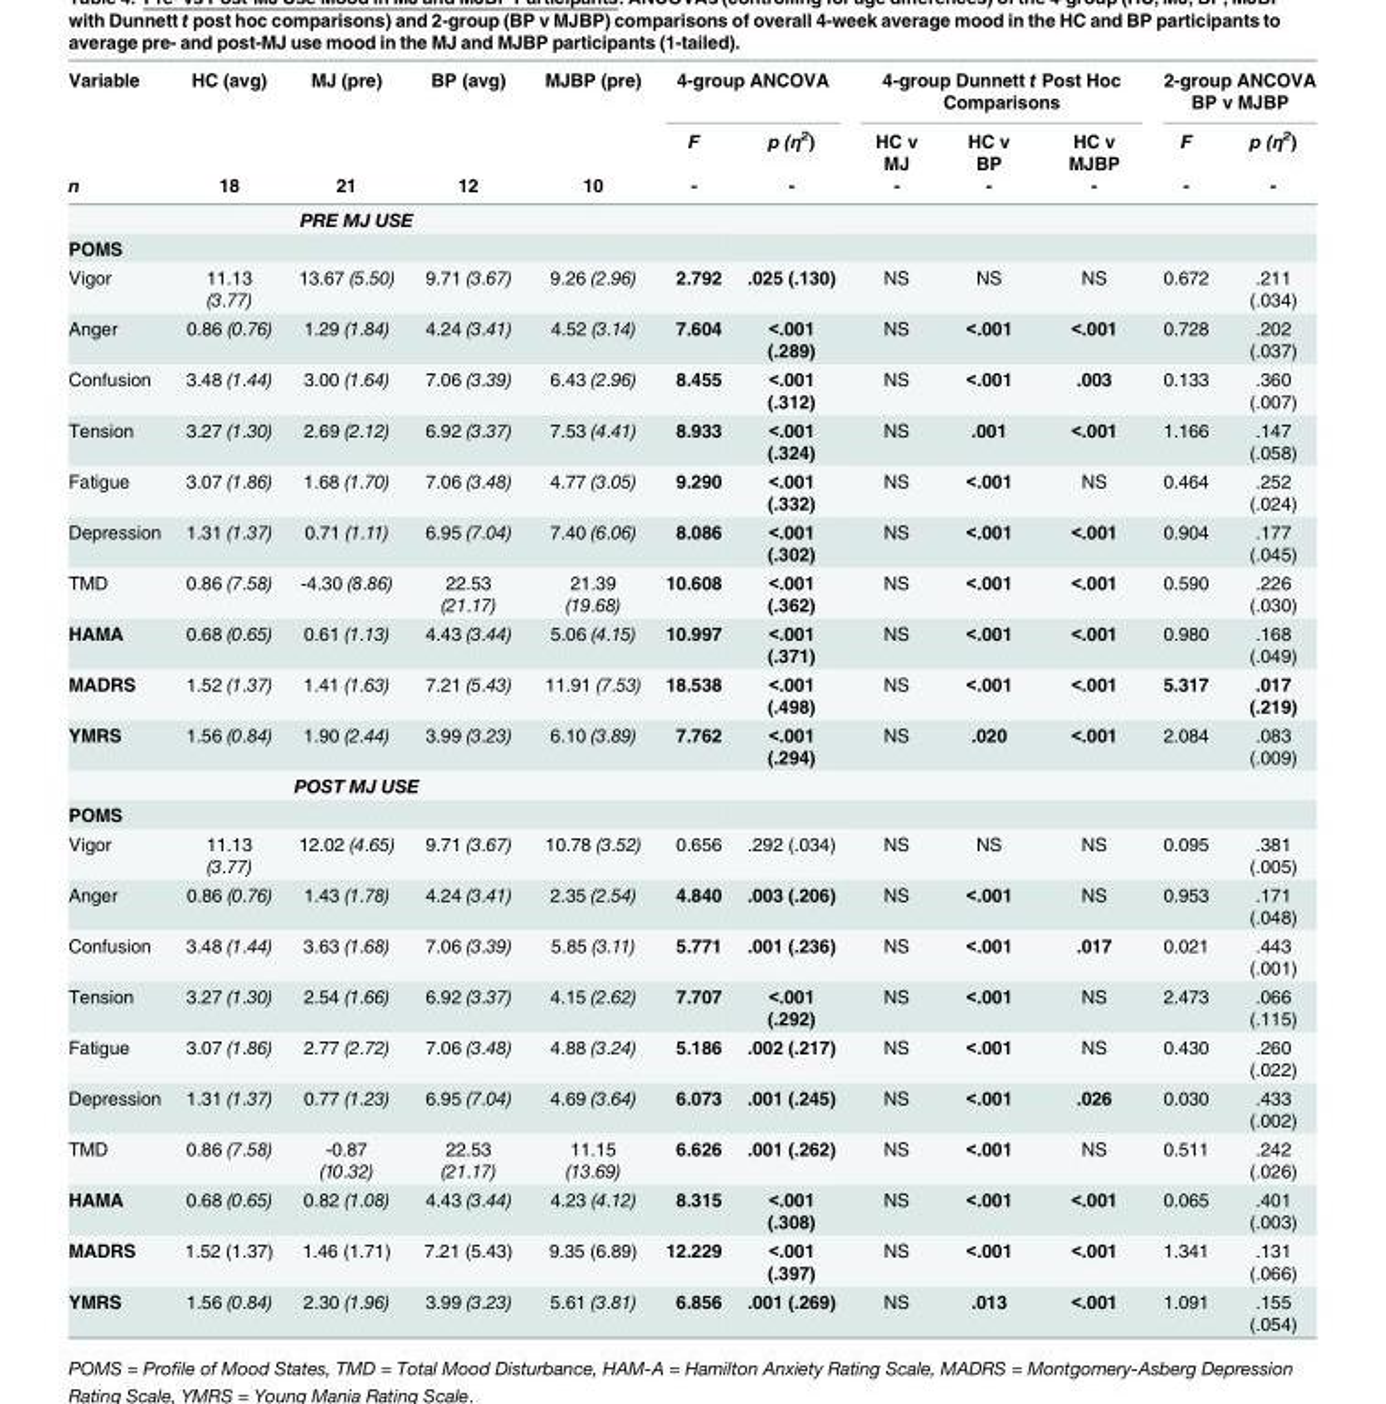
<table><thead><tr><td rowspan="3">Variable n</td><td rowspan="3">HC (avg) 18</td><td rowspan="3">MJ (pre) 21</td><td rowspan="3">BP (avg) 12</td><td rowspan="3">MJBP (pre) 10</td><td colspan="2">4-group ANCOVA</td><td colspan="3">4-group Dunnett t Post Hoc Comparisons</td><td colspan="2">2-group ANCOVA BP v MJBP</td></tr><tr><td rowspan="2">F -</td><td rowspan="2">p (η<sup>2</sup>) -</td><td rowspan="2">HC v MJ -</td><td rowspan="2">HC v BP -</td><td rowspan="2">HC v MJBP -</td><td rowspan="2">F -</td><td rowspan="2">p (η<sup>2</sup>) -</td></tr><tr></tr></thead><tbody><tr><td colspan="12">PRE MJ USE</td></tr><tr><td colspan="12">POMS</td></tr><tr><td>Vigor</td><td>11.13 (3.77)</td><td>13.67 (5.50)</td><td>9.71 (3.67)</td><td>9.26 (2.96)</td><td>2.792</td><td>.025 (.130)</td><td>NS</td><td>NS</td><td>NS</td><td>0.672</td><td>.211 (.034)</td></tr><tr><td>Anger</td><td>0.86 (0.76)</td><td>1.29 (1.84)</td><td>4.24 (3.41)</td><td>4.52 (3.14)</td><td>7.604</td><td>&lt;.001 (.289)</td><td>NS</td><td>&lt;.001</td><td>&lt;.001</td><td>0.728</td><td>.202 (.037)</td></tr><tr><td>Confusion</td><td>3.48 (1.44)</td><td>3.00 (1.64)</td><td>7.06 (3.39)</td><td>6.43 (2.96)</td><td>8.455</td><td>&lt;.001 (.312)</td><td>NS</td><td>&lt;.001</td><td>.003</td><td>0.133</td><td>.360 (.007)</td></tr><tr><td>Tension</td><td>3.27 (1.30)</td><td>2.69 (2.12)</td><td>6.92 (3.37)</td><td>7.53 (4.41)</td><td>8.933</td><td>&lt;.001 (.324)</td><td>NS</td><td>.001</td><td>&lt;.001</td><td>1.166</td><td>.147 (.058)</td></tr><tr><td>Fatigue</td><td>3.07 (1.86)</td><td>1.68 (1.70)</td><td>7.06 (3.48)</td><td>4.77 (3.05)</td><td>9.290</td><td>&lt;.001 (.332)</td><td>NS</td><td>&lt;.001</td><td>NS</td><td>0.464</td><td>.252 (.024)</td></tr><tr><td>Depression</td><td>1.31 (1.37)</td><td>0.71 (1.11)</td><td>6.95 (7.04)</td><td>7.40 (6.06)</td><td>8.086</td><td>&lt;.001 (.302)</td><td>NS</td><td>&lt;.001</td><td>&lt;.001</td><td>0.904</td><td>.177 (.045)</td></tr><tr><td>TMD</td><td>0.86 (7.58)</td><td>-4.30 (8.86)</td><td>22.53 (21.17)</td><td>21.39 (19.68)</td><td>10.608</td><td>&lt;.001 (.362)</td><td>NS</td><td>&lt;.001</td><td>&lt;.001</td><td>0.590</td><td>.226 (.030)</td></tr><tr><td>HAMA</td><td>0.68 (0.65)</td><td>0.61 (1.13)</td><td>4.43 (3.44)</td><td>5.06 (4.15)</td><td>10.997</td><td>&lt;.001 (.371)</td><td>NS</td><td>&lt;.001</td><td>&lt;.001</td><td>0.980</td><td>.168 (.049)</td></tr><tr><td>MADRS</td><td>1.52 (1.37)</td><td>1.41 (1.63)</td><td>7.21 (5.43)</td><td>11.91 (7.53)</td><td>18.538</td><td>&lt;.001 (.498)</td><td>NS</td><td>&lt;.001</td><td>&lt;.001</td><td>5.317</td><td>.017 (.219)</td></tr><tr><td>YMRS</td><td>1.56 (0.84)</td><td>1.90 (2.44)</td><td>3.99 (3.23)</td><td>6.10 (3.89)</td><td>7.762</td><td>&lt;.001 (.294)</td><td>NS</td><td>.020</td><td>&lt;.001</td><td>2.084</td><td>.083 (.009)</td></tr><tr><td colspan="12">POST MJ USE</td></tr><tr><td colspan="12">POMS</td></tr><tr><td>Vigor</td><td>11.13 (3.77)</td><td>12.02 (4.65)</td><td>9.71 (3.67)</td><td>10.78 (3.52)</td><td>0.656</td><td>.292 (.034)</td><td>NS</td><td>NS</td><td>NS</td><td>0.095</td><td>.381 (.005)</td></tr><tr><td>Anger</td><td>0.86 (0.76)</td><td>1.43 (1.78)</td><td>4.24 (3.41)</td><td>2.35 (2.54)</td><td>4.840</td><td>.003 (.206)</td><td>NS</td><td>&lt;.001</td><td>NS</td><td>0.953</td><td>.171 (.048)</td></tr><tr><td>Confusion</td><td>3.48 (1.44)</td><td>3.63 (1.68)</td><td>7.06 (3.39)</td><td>5.85 (3.11)</td><td>5.771</td><td>.001 (.236)</td><td>NS</td><td>&lt;.001</td><td>.017</td><td>0.021</td><td>.443 (.001)</td></tr><tr><td>Tension</td><td>3.27 (1.30)</td><td>2.54 (1.66)</td><td>6.92 (3.37)</td><td>4.15 (2.62)</td><td>7.707</td><td>&lt;.001 (.292)</td><td>NS</td><td>&lt;.001</td><td>NS</td><td>2.473</td><td>.066 (.115)</td></tr><tr><td>Fatigue</td><td>3.07 (1.86)</td><td>2.77 (2.72)</td><td>7.06 (3.48)</td><td>4.88 (3.24)</td><td>5.186</td><td>.002 (.217)</td><td>NS</td><td>&lt;.001</td><td>NS</td><td>0.430</td><td>.260 (.022)</td></tr><tr><td>Depression</td><td>1.31 (1.37)</td><td>0.77 (1.23)</td><td>6.95 (7.04)</td><td>4.69 (3.64)</td><td>6.073</td><td>.001 (.245)</td><td>NS</td><td>&lt;.001</td><td>.026</td><td>0.030</td><td>.433 (.002)</td></tr><tr><td>TMD</td><td>0.86 (7.58)</td><td>-0.87 (10.32)</td><td>22.53 (21.17)</td><td>11.15 (13.69)</td><td>6.626</td><td>.001 (.262)</td><td>NS</td><td>&lt;.001</td><td>NS</td><td>0.511</td><td>.242 (.026)</td></tr><tr><td>HAMA</td><td>0.68 (0.65)</td><td>0.82 (1.08)</td><td>4.43 (3.44)</td><td>4.23 (4.12)</td><td>8.315</td><td>&lt;.001 (.308)</td><td>NS</td><td>&lt;.001</td><td>&lt;.001</td><td>0.065</td><td>.401 (.003)</td></tr><tr><td>MADRS</td><td>1.52 (1.37)</td><td>1.46 (1.71)</td><td>7.21 (5.43)</td><td>9.35 (6.89)</td><td>12.229</td><td>&lt;.001 (.397)</td><td>NS</td><td>&lt;.001</td><td>&lt;.001</td><td>1.341</td><td>.131 (.066)</td></tr><tr><td>YMRS</td><td>1.56 (0.84)</td><td>2.30 (1.96)</td><td>3.99 (3.23)</td><td>5.61 (3.81)</td><td>6.856</td><td>.001 (.269)</td><td>NS</td><td>.013</td><td>&lt;.001</td><td>1.091</td><td>.155 (.054)</td></tr></tbody></table>